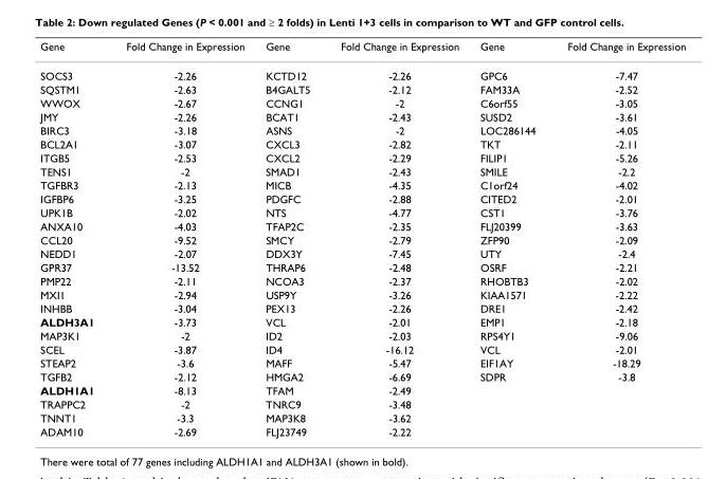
<table><thead><tr><td>Gene</td><td>Fold Change in Expression</td><td>Gene</td><td>Fold Change in Expression</td><td>Gene</td><td>Fold Change in Expression</td></tr></thead><tbody><tr><td>SOCS3</td><td>-2.26</td><td>KCTD12</td><td>-2.26</td><td>GPC6</td><td>-7.47</td></tr><tr><td>SQSTM1</td><td>-2.63</td><td>B4GALT5</td><td>-2.12</td><td>FAM33A</td><td>-2.52</td></tr><tr><td>WWOX</td><td>-2.67</td><td>CCNG1</td><td>-2</td><td>C6orf55</td><td>-3.05</td></tr><tr><td>JMY</td><td>-2.26</td><td>BCAT1</td><td>-2.43</td><td>SUSD2</td><td>-3.61</td></tr><tr><td>BIRC3</td><td>-3.18</td><td>ASNS</td><td>-2</td><td>LOC286144</td><td>-4.05</td></tr><tr><td>BCL2A1</td><td>-3.07</td><td>CXCL3</td><td>-2.82</td><td>TKT</td><td>-2.11</td></tr><tr><td>ITGB5</td><td>-2.53</td><td>CXCL2</td><td>-2.29</td><td>FILIP1</td><td>-5.26</td></tr><tr><td>TENS1</td><td>-2</td><td>SMAD1</td><td>-2.43</td><td>SMILE</td><td>-2.2</td></tr><tr><td>TGFBR3</td><td>-2.13</td><td>MICB</td><td>-4.35</td><td>C1orf24</td><td>-4.02</td></tr><tr><td>IGFBP6</td><td>-3.25</td><td>PDGFC</td><td>-2.88</td><td>CITED2</td><td>-2.01</td></tr><tr><td>UPK1B</td><td>-2.02</td><td>NTS</td><td>-4.77</td><td>CST1</td><td>-3.76</td></tr><tr><td>ANXA10</td><td>-4.03</td><td>TFAP2C</td><td>-2.35</td><td>FLJ20399</td><td>-3.63</td></tr><tr><td>CCL20</td><td>-9.52</td><td>SMCY</td><td>-2.79</td><td>ZFP90</td><td>-2.09</td></tr><tr><td>NEDD1</td><td>-2.07</td><td>DDX3Y</td><td>-7.45</td><td>UTY</td><td>-2.4</td></tr><tr><td>GPR37</td><td>-13.52</td><td>THRAP6</td><td>-2.48</td><td>OSRF</td><td>-2.21</td></tr><tr><td>PMP22</td><td>-2.11</td><td>NCOA3</td><td>-2.37</td><td>RHOBTB3</td><td>-2.02</td></tr><tr><td>MXI1</td><td>-2.94</td><td>USP9Y</td><td>-3.26</td><td>KIAA1571</td><td>-2.22</td></tr><tr><td>INHBB</td><td>-3.04</td><td>PEX13</td><td>-2.26</td><td>DRE1</td><td>-2.42</td></tr><tr><td>ALDH3A1</td><td>-3.73</td><td>VCL</td><td>-2.01</td><td>EMP1</td><td>-2.18</td></tr><tr><td>MAP3K1</td><td>-2</td><td>ID2</td><td>-2.03</td><td>RPS4Y1</td><td>-9.06</td></tr><tr><td>SCEL</td><td>-3.87</td><td>ID4</td><td>-16.12</td><td>VCL</td><td>-2.01</td></tr><tr><td>STEAP2</td><td>-3.6</td><td>MAFF</td><td>-5.47</td><td>EIF1AY</td><td>-18.29</td></tr><tr><td>TGFB2</td><td>-2.12</td><td>HMGA2</td><td>-6.69</td><td>SDPR</td><td>-3.8</td></tr><tr><td>ALDH1A1</td><td>-8.13</td><td>TFAM</td><td>-2.49</td><td></td><td></td></tr><tr><td>TRAPPC2</td><td>-2</td><td>TNRC9</td><td>-3.48</td><td></td><td></td></tr><tr><td>TNNT1</td><td>-3.3</td><td>MAP3K8</td><td>-3.62</td><td></td><td></td></tr><tr><td>ADAM10</td><td>-2.69</td><td>FLJ23749</td><td>-2.22</td><td></td><td></td></tr></tbody></table>